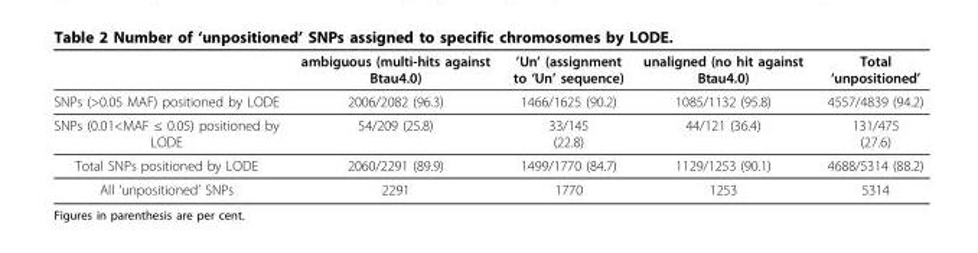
<table><thead><tr><td></td><td>ambiguous (multi-hits against Btau4.0)</td><td>’Un’ (assignment to ‘Un’ sequence)</td><td>unaligned (no hit against Btau4.0)</td><td>Total ‘unpositioned’</td></tr></thead><tbody><tr><td>SNPs (&gt;0.05 MAF) positioned by LODE</td><td>2006/2082 (96.3)</td><td>1466/1625 (90.2)</td><td>1085/1132 (95.8)</td><td>4557/4839 (94.2)</td></tr><tr><td>SNPs (0.01&lt;MAF ≤ 0.05) positioned by LODE</td><td>54/209 (25.8)</td><td>33/145 (22.8)</td><td>44/121 (36.4)</td><td>131/475 (27.6)</td></tr><tr><td>Total SNPs positioned by LODE</td><td>2060/2291 (89.9)</td><td>1499/1770 (84.7)</td><td>1129/1253 (90.1)</td><td>4688/5314 (88.2)</td></tr><tr><td>All ‘unpositioned’ SNPs</td><td>2291</td><td>1770</td><td>1253</td><td>5314</td></tr></tbody></table>